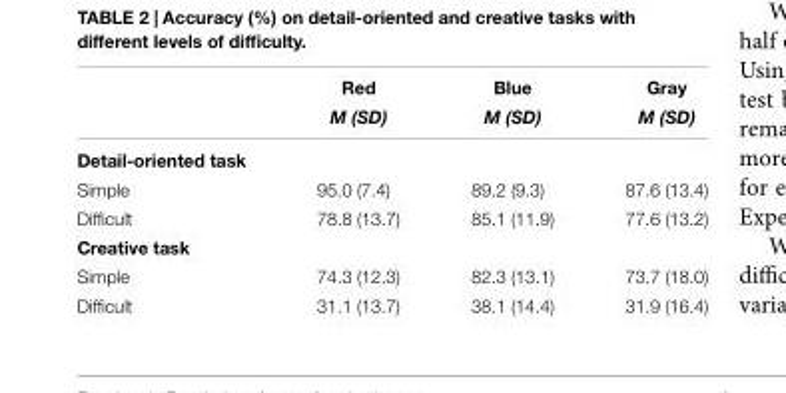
<table><thead><tr><td rowspan="2"></td><td rowspan="2">Red M (SD)</td><td rowspan="2">Blue M (SD)</td><td rowspan="2">Gray M (SD)</td></tr><tr></tr></thead><tbody><tr><td colspan="4">Detail-oriented task</td></tr><tr><td>Simple</td><td>95.0 (7.4)</td><td>89.2 (9.3)</td><td>87.6 (13.4)</td></tr><tr><td>Difficult</td><td>78.8 (13.7)</td><td>85.1 (11.9)</td><td>77.6 (13.2)</td></tr><tr><td colspan="4">Creative task</td></tr><tr><td>Simple</td><td>74.3 (12.3)</td><td>82.3 (13.1)</td><td>73.7 (18.0)</td></tr><tr><td>Difficult</td><td>31.1 (13.7)</td><td>38.1 (14.4)</td><td>31.9 (16.4)</td></tr></tbody></table>